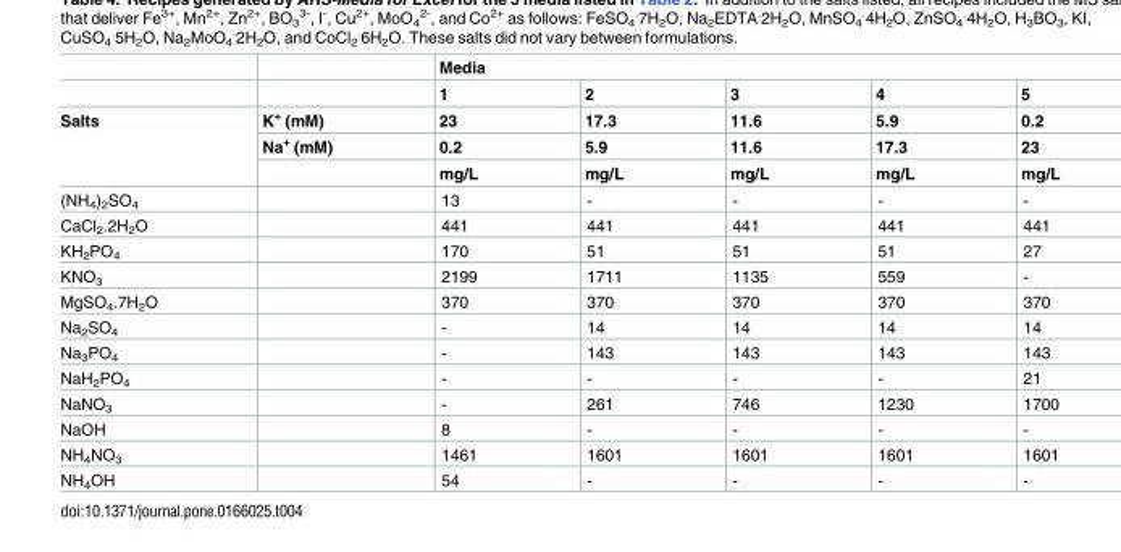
<table><thead><tr><td rowspan="5">Salts</td><td rowspan="5">K<sup>+</sup> (mM) Na<sup>+</sup> (mM)</td><td colspan="5">Media</td></tr><tr><td rowspan="4">1 23 0.2 mg/L</td><td rowspan="4">2 17.3 5.9 mg/L</td><td rowspan="4">3 11.6 11.6 mg/L</td><td rowspan="4">4 5.9 17.3 mg/L</td><td rowspan="4">5 0.2 23 mg/L</td></tr><tr></tr><tr></tr><tr></tr></thead><tbody><tr><td>(NH<sub>4</sub>)<sub>2</sub>SO<sub>4</sub></td><td></td><td>13</td><td>-</td><td>-</td><td>-</td><td>-</td></tr><tr><td>CaCl<sub>2</sub>.2H<sub>2</sub>O</td><td></td><td>441</td><td>441</td><td>441</td><td>441</td><td>441</td></tr><tr><td>KH<sub>2</sub>PO<sub>4</sub></td><td></td><td>170</td><td>51</td><td>51</td><td>51</td><td>27</td></tr><tr><td>KNO<sub>3</sub></td><td></td><td>2199</td><td>1711</td><td>1135</td><td>559</td><td>-</td></tr><tr><td>MgSO<sub>4</sub>.7H<sub>2</sub>O</td><td></td><td>370</td><td>370</td><td>370</td><td>370</td><td>370</td></tr><tr><td>Na<sub>2</sub>SO<sub>4</sub></td><td></td><td>-</td><td>14</td><td>14</td><td>14</td><td>14</td></tr><tr><td>Na<sub>3</sub>PO<sub>4</sub></td><td></td><td>-</td><td>143</td><td>143</td><td>143</td><td>143</td></tr><tr><td>NaH<sub>2</sub>PO<sub>4</sub></td><td></td><td>-</td><td>-</td><td>-</td><td>-</td><td>21</td></tr><tr><td>NaNO<sub>3</sub></td><td></td><td>-</td><td>261</td><td>746</td><td>1230</td><td>1700</td></tr><tr><td>NaOH</td><td></td><td>8</td><td>-</td><td>-</td><td>-</td><td>-</td></tr><tr><td>NH<sub>4</sub>NO<sub>3</sub></td><td></td><td>1461</td><td>1601</td><td>1601</td><td>1601</td><td>1601</td></tr><tr><td>NH<sub>4</sub>OH</td><td></td><td>54</td><td>-</td><td>-</td><td>-</td><td>-</td></tr></tbody></table>